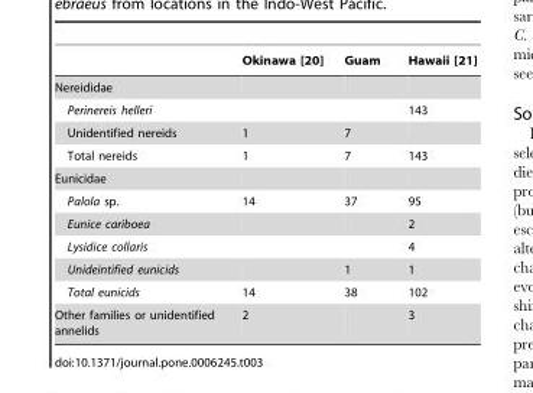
<table><thead><tr><td></td><td>Okinawa [20]</td><td>Guam</td><td>Hawaii [21]</td></tr></thead><tbody><tr><td colspan="4">Nereididae</td></tr><tr><td>Perinereis helleri</td><td></td><td></td><td>143</td></tr><tr><td>Unidentified nereids</td><td>1</td><td>7</td><td></td></tr><tr><td>Total nereids</td><td>1</td><td>7</td><td>143</td></tr><tr><td colspan="4">Eunicidae</td></tr><tr><td>Palola sp.</td><td>14</td><td>37</td><td>95</td></tr><tr><td>Eunice cariboea</td><td></td><td></td><td>2</td></tr><tr><td>Lysidice collaris</td><td></td><td></td><td>4</td></tr><tr><td>Unideintified eunicids</td><td></td><td>1</td><td>1</td></tr><tr><td>Total eunicids</td><td>14</td><td>38</td><td>102</td></tr><tr><td>Other families or unidentified annelids</td><td>2</td><td></td><td>3</td></tr></tbody></table>